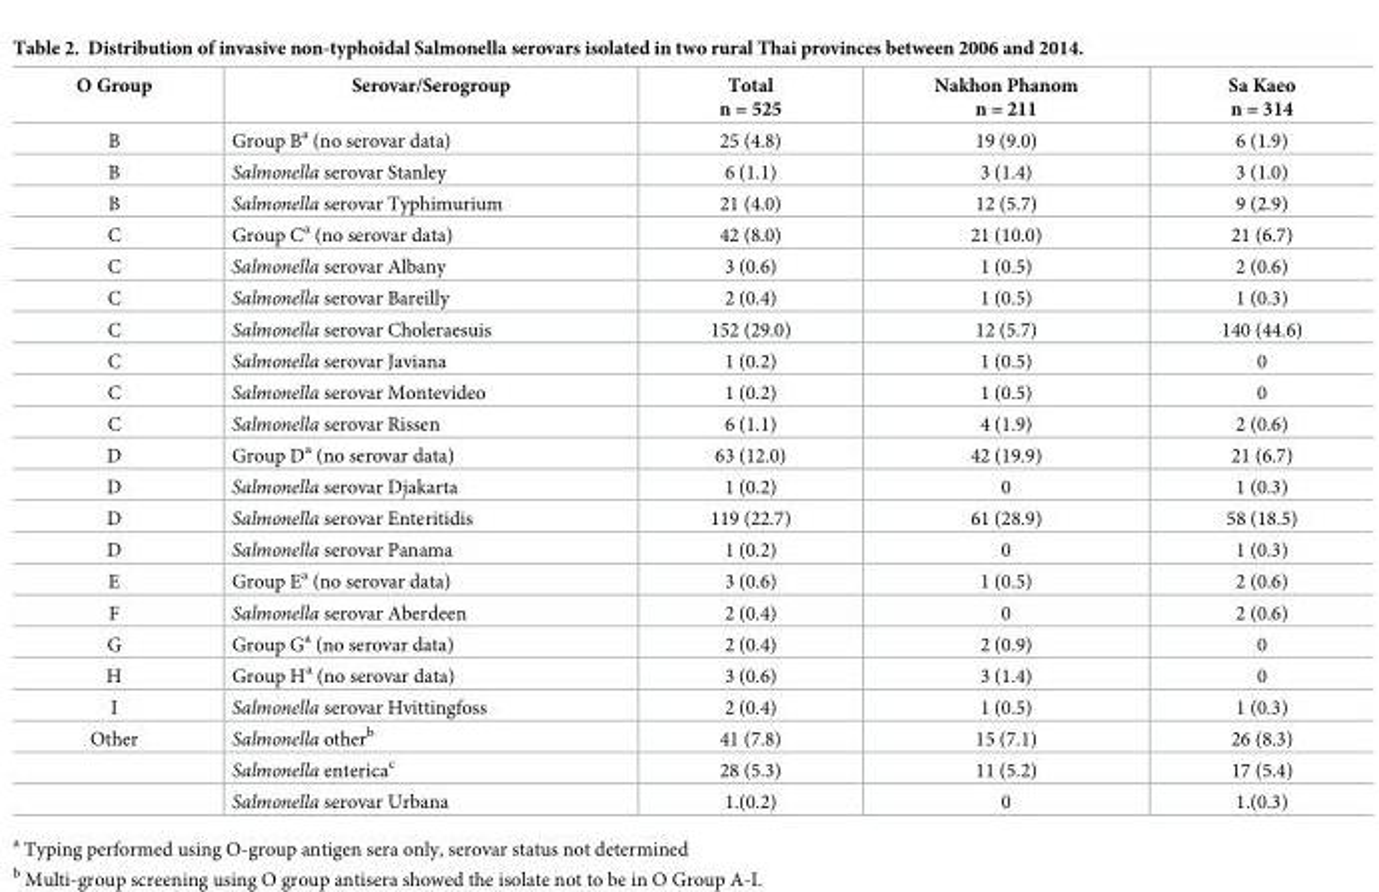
<table><thead><tr><td>O Group</td><td>Serovar/Serogroup</td><td>Total n = 525</td><td>Nakhon Phanom n = 211</td><td>Sa Kaeo n = 314</td></tr></thead><tbody><tr><td>B</td><td>Group B<sup>a</sup> (no serovar data)</td><td>25 (4.8)</td><td>19 (9.0)</td><td>6 (1.9)</td></tr><tr><td>B</td><td>Salmonella serovar Stanley</td><td>6 (1.1)</td><td>3 (1.4)</td><td>3 (1.0)</td></tr><tr><td>B</td><td>Salmonella serovar Typhimurium</td><td>21 (4.0)</td><td>12 (5.7)</td><td>9 (2.9)</td></tr><tr><td>C</td><td>Group C<sup>a</sup> (no serovar data)</td><td>42 (8.0)</td><td>21 (10.0)</td><td>21 (6.7)</td></tr><tr><td>C</td><td>Salmonella serovar Albany</td><td>3 (0.6)</td><td>1 (0.5)</td><td>2 (0.6)</td></tr><tr><td>C</td><td>Salmonella serovar Bareilly</td><td>2 (0.4)</td><td>1 (0.5)</td><td>1 (0.3)</td></tr><tr><td>C</td><td>Salmonella serovar Choleraesuis</td><td>152 (29.0)</td><td>12 (5.7)</td><td>140 (44.6)</td></tr><tr><td>C</td><td>Salmonella serovar Javiana</td><td>1 (0.2)</td><td>1 (0.5)</td><td>0</td></tr><tr><td>C</td><td>Salmonella serovar Montevideo</td><td>1 (0.2)</td><td>1 (0.5)</td><td>0</td></tr><tr><td>C</td><td>Salmonella serovar Rissen</td><td>6 (1.1)</td><td>4 (1.9)</td><td>2 (0.6)</td></tr><tr><td>D</td><td>Group D<sup>a</sup> (no serovar data)</td><td>63 (12.0)</td><td>42 (19.9)</td><td>21 (6.7)</td></tr><tr><td>D</td><td>Salmonella serovar Djakarta</td><td>1 (0.2)</td><td>0</td><td>1 (0.3)</td></tr><tr><td>D</td><td>Salmonella serovar Enteritidis</td><td>119 (22.7)</td><td>61 (28.9)</td><td>58 (18.5)</td></tr><tr><td>D</td><td>Salmonella serovar Panama</td><td>1 (0.2)</td><td>0</td><td>1 (0.3)</td></tr><tr><td>E</td><td>Group E<sup>a</sup> (no serovar data)</td><td>3 (0.6)</td><td>1 (0.5)</td><td>2 (0.6)</td></tr><tr><td>F</td><td>Salmonella serovar Aberdeen</td><td>2 (0.4)</td><td>0</td><td>2 (0.6)</td></tr><tr><td>G</td><td>Group G<sup>a</sup> (no serovar data)</td><td>2 (0.4)</td><td>2 (0.9)</td><td>0</td></tr><tr><td>H</td><td>Group H<sup>a</sup> (no serovar data)</td><td>3 (0.6)</td><td>3 (1.4)</td><td>0</td></tr><tr><td>I</td><td>Salmonella serovar Hvittingfoss</td><td>2 (0.4)</td><td>1 (0.5)</td><td>1 (0.3)</td></tr><tr><td rowspan="3">Other</td><td>Salmonella other<sup>b</sup></td><td>41 (7.8)</td><td>15 (7.1)</td><td>26 (8.3)</td></tr><tr><td>Salmonella enterica<sup>c</sup></td><td>28 (5.3)</td><td>11 (5.2)</td><td>17 (5.4)</td></tr><tr><td>Salmonella serovar Urbana</td><td>1.(0.2)</td><td>0</td><td>1.(0.3)</td></tr></tbody></table>